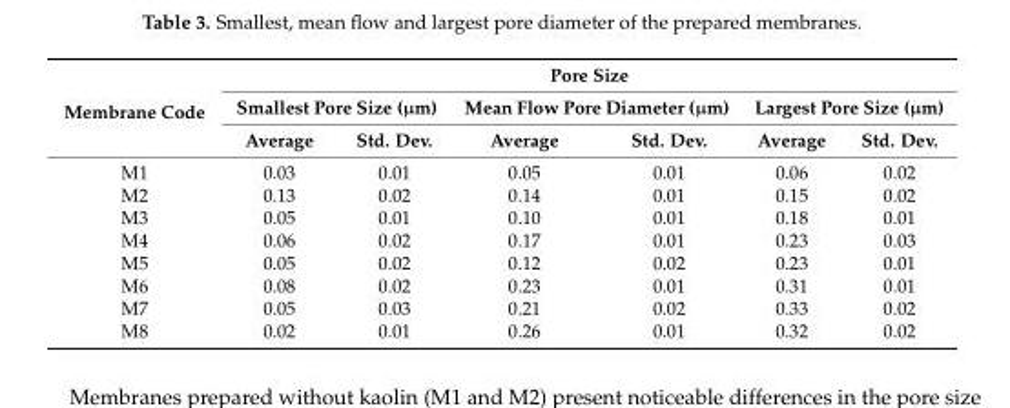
<table><thead><tr><td rowspan="3">Membrane Code</td><td colspan="6">Pore Size</td></tr><tr><td colspan="2">Smallest Pore Size (µm)</td><td colspan="2">Mean Flow Pore Diameter (µm)</td><td colspan="2">Largest Pore Size (µm)</td></tr><tr><td>Average</td><td>Std. Dev.</td><td>Average</td><td>Std. Dev.</td><td>Average</td><td>Std. Dev.</td></tr></thead><tbody><tr><td>M1</td><td>0.03</td><td>0.01</td><td>0.05</td><td>0.01</td><td>0.06</td><td>0.02</td></tr><tr><td>M2</td><td>0.13</td><td>0.02</td><td>0.14</td><td>0.01</td><td>0.15</td><td>0.02</td></tr><tr><td>M3</td><td>0.05</td><td>0.01</td><td>0.10</td><td>0.01</td><td>0.18</td><td>0.01</td></tr><tr><td>M4</td><td>0.06</td><td>0.02</td><td>0.17</td><td>0.01</td><td>0.23</td><td>0.03</td></tr><tr><td>M5</td><td>0.05</td><td>0.02</td><td>0.12</td><td>0.02</td><td>0.23</td><td>0.01</td></tr><tr><td>M6</td><td>0.08</td><td>0.02</td><td>0.23</td><td>0.01</td><td>0.31</td><td>0.01</td></tr><tr><td>M7</td><td>0.05</td><td>0.03</td><td>0.21</td><td>0.02</td><td>0.33</td><td>0.02</td></tr><tr><td>M8</td><td>0.02</td><td>0.01</td><td>0.26</td><td>0.01</td><td>0.32</td><td>0.02</td></tr></tbody></table>